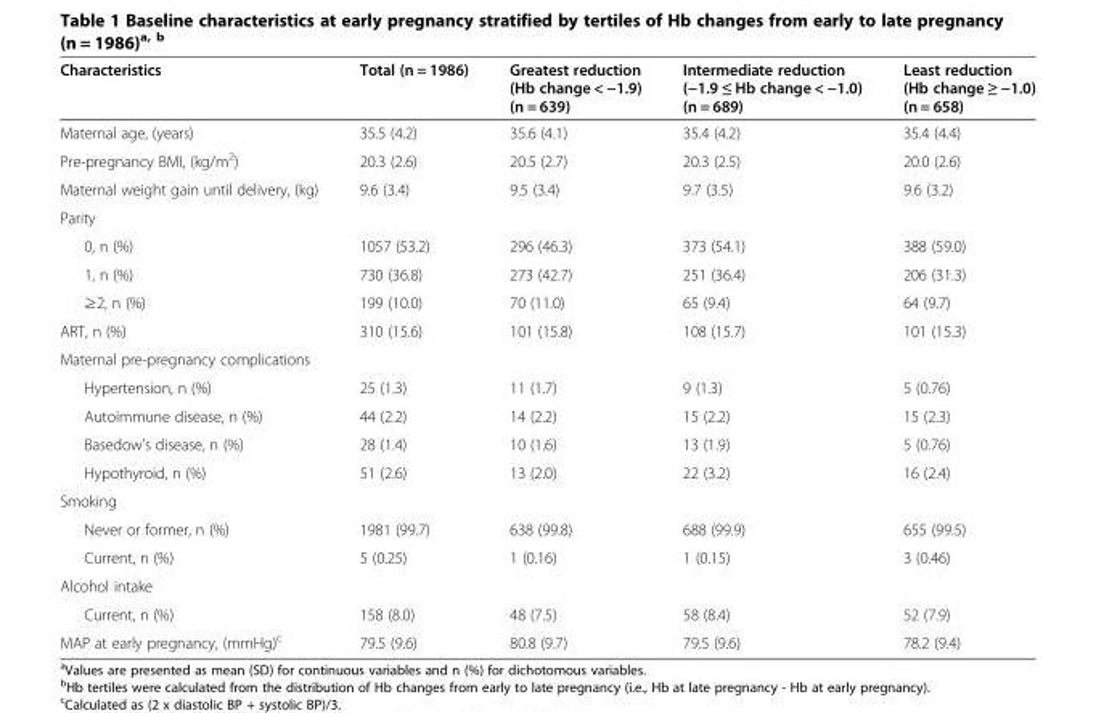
<table><thead><tr><td>Characteristics</td><td>Total (n = 1986)</td><td>Greatest reduction (Hb change &lt; −1.9) (n = 639)</td><td>Intermediate reduction (−1.9 ≤ Hb change &lt; −1.0) (n = 689)</td><td>Least reduction (Hb change ≥ −1.0) (n = 658)</td></tr></thead><tbody><tr><td>Maternal age, (years)</td><td>35.5 (4.2)</td><td>35.6 (4.1)</td><td>35.4 (4.2)</td><td>35.4 (4.4)</td></tr><tr><td>Pre-pregnancy BMI, (kg/m<sup>2</sup>)</td><td>20.3 (2.6)</td><td>20.5 (2.7)</td><td>20.3 (2.5)</td><td>20.0 (2.6)</td></tr><tr><td>Maternal weight gain until delivery, (kg)</td><td>9.6 (3.4)</td><td>9.5 (3.4)</td><td>9.7 (3.5)</td><td>9.6 (3.2)</td></tr><tr><td colspan="5">Parity</td></tr><tr><td>0, n (%)</td><td>1057 (53.2)</td><td>296 (46.3)</td><td>373 (54.1)</td><td>388 (59.0)</td></tr><tr><td>1, n (%)</td><td>730 (36.8)</td><td>273 (42.7)</td><td>251 (36.4)</td><td>206 (31.3)</td></tr><tr><td>≥2, n (%)</td><td>199 (10.0)</td><td>70 (11.0)</td><td>65 (9.4)</td><td>64 (9.7)</td></tr><tr><td>ART, n (%)</td><td>310 (15.6)</td><td>101 (15.8)</td><td>108 (15.7)</td><td>101 (15.3)</td></tr><tr><td colspan="5">Maternal pre-pregnancy complications</td></tr><tr><td>Hypertension, n (%)</td><td>25 (1.3)</td><td>11 (1.7)</td><td>9 (1.3)</td><td>5 (0.76)</td></tr><tr><td>Autoimmune disease, n (%)</td><td>44 (2.2)</td><td>14 (2.2)</td><td>15 (2.2)</td><td>15 (2.3)</td></tr><tr><td>Basedow’s disease, n (%)</td><td>28 (1.4)</td><td>10 (1.6)</td><td>13 (1.9)</td><td>5 (0.76)</td></tr><tr><td>Hypothyroid, n (%)</td><td>51 (2.6)</td><td>13 (2.0)</td><td>22 (3.2)</td><td>16 (2.4)</td></tr><tr><td colspan="5">Smoking</td></tr><tr><td>Never or former, n (%)</td><td>1981 (99.7)</td><td>638 (99.8)</td><td>688 (99.9)</td><td>655 (99.5)</td></tr><tr><td>Current, n (%)</td><td>5 (0.25)</td><td>1 (0.16)</td><td>1 (0.15)</td><td>3 (0.46)</td></tr><tr><td colspan="5">Alcohol intake</td></tr><tr><td>Current, n (%)</td><td>158 (8.0)</td><td>48 (7.5)</td><td>58 (8.4)</td><td>52 (7.9)</td></tr><tr><td>MAP at early pregnancy, (mmHg)<sup>c</sup></td><td>79.5 (9.6)</td><td>80.8 (9.7)</td><td>79.5 (9.6)</td><td>78.2 (9.4)</td></tr></tbody></table>